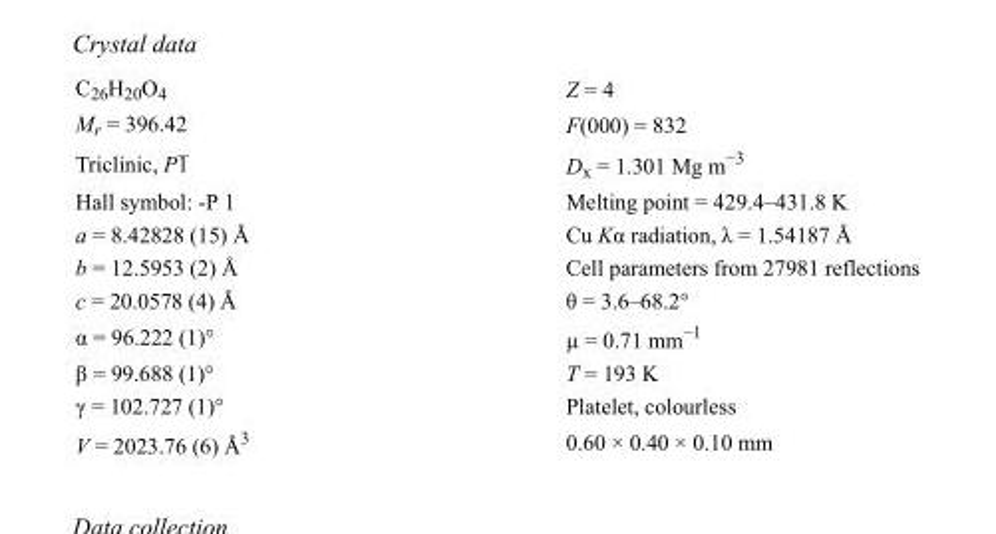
<table><tbody><tr><td>C<sub>26</sub>H<sub>20</sub>O<sub>4</sub></td><td>Z = 4</td></tr><tr><td>M<sub>r</sub> = 396.42</td><td>F(000) = 832</td></tr><tr><td>Triclinic, P1</td><td>D<sub>x</sub> = 1.301 Mg m<sup>−3</sup></td></tr><tr><td>Hall symbol: -P 1</td><td>Melting point = 429.4–431.8 K</td></tr><tr><td>a = 8.42828 (15) Å</td><td>Cu Kα radiation, λ = 1.54187 Å</td></tr><tr><td>b = 12.5953 (2) Å</td><td>Cell parameters from 27981 reflections</td></tr><tr><td>c = 20.0578 (4) Å</td><td>θ = 3.6–68.2°</td></tr><tr><td>α = 96.222 (1)°</td><td>µ = 0.71 mm<sup>−1</sup></td></tr><tr><td>β = 99.688 (1)°</td><td>T = 193 K</td></tr><tr><td>γ = 102.727 (1)°</td><td>Platelet, colourless</td></tr><tr><td>V = 2023.76 (6) Å<sup>3</sup></td><td>0.60 × 0.40 × 0.10 mm</td></tr></tbody></table>